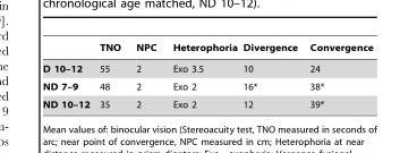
<table><thead><tr><td></td><td>TNO</td><td>NPC</td><td>Heterophoria</td><td>Divergence</td><td>Convergence</td></tr></thead><tbody><tr><td>D 10–12</td><td>55</td><td>2</td><td>Exo 3.5</td><td>10</td><td>24</td></tr><tr><td>ND 7–9</td><td>48</td><td>2</td><td>Exo 2</td><td>16*</td><td>38*</td></tr><tr><td>ND 10–12</td><td>35</td><td>2</td><td>Exo 2</td><td>12</td><td>39*</td></tr></tbody></table>